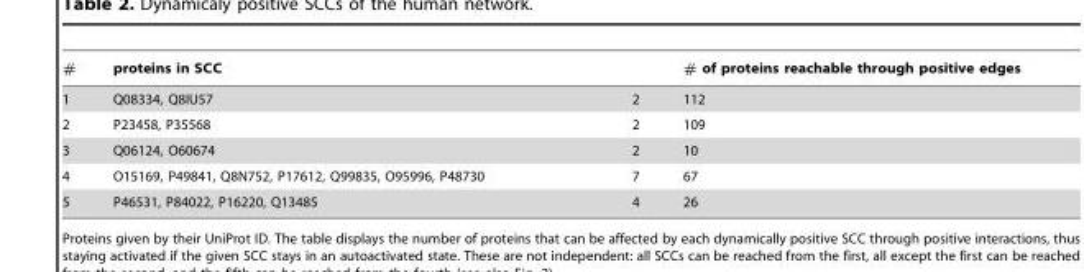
<table><thead><tr><td rowspan="2"># 1</td><td colspan="2">proteins in SCC</td><td rowspan="2"># of proteins reachable through positive edges 112</td></tr><tr><td>Q08334, Q8IU57</td><td>2</td></tr></thead><tbody><tr><td>2</td><td>P23458, P35568</td><td>2</td><td>109</td></tr><tr><td>3</td><td>Q06124, O60674</td><td>2</td><td>10</td></tr><tr><td>4</td><td>O15169, P49841, Q8N752, P17612, Q99835, O95996, P48730</td><td>7</td><td>67</td></tr><tr><td>5</td><td>P46531, P84022, P16220, Q13485</td><td>4</td><td>26</td></tr></tbody></table>